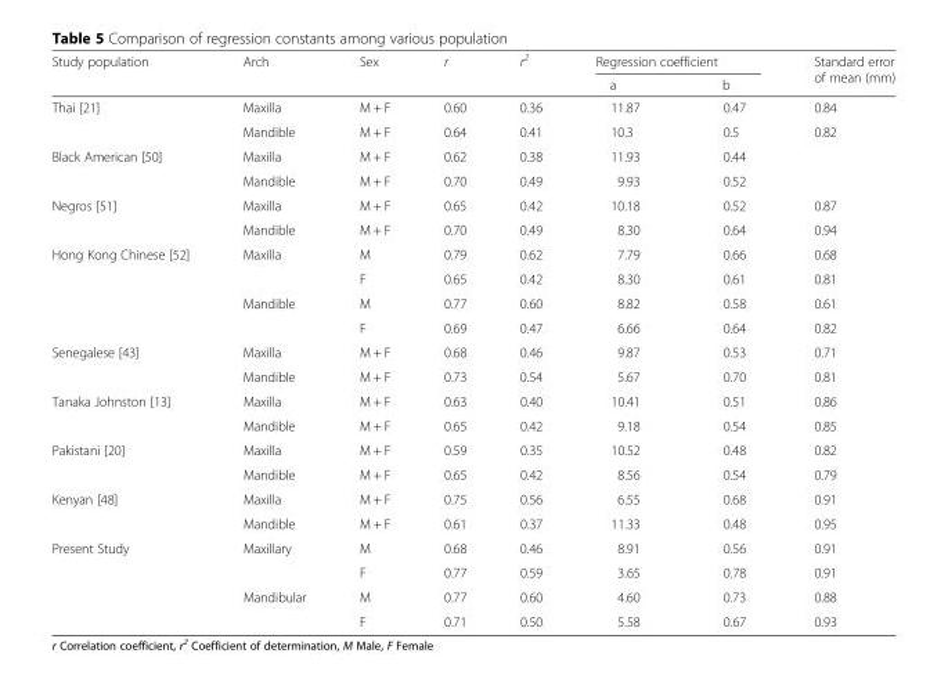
<table><thead><tr><td rowspan="2">Study population</td><td rowspan="2">Arch</td><td rowspan="2">Sex</td><td rowspan="2">r</td><td rowspan="2">r<sup>2</sup></td><td colspan="2">Regression coefficient</td><td rowspan="2">Standard error of mean (mm)</td></tr><tr><td>a</td><td>b</td></tr></thead><tbody><tr><td rowspan="2">Thai [21]</td><td>Maxilla</td><td>M + F</td><td>0.60</td><td>0.36</td><td>11.87</td><td>0.47</td><td>0.84</td></tr><tr><td>Mandible</td><td>M + F</td><td>0.64</td><td>0.41</td><td>10.3</td><td>0.5</td><td>0.82</td></tr><tr><td rowspan="2">Black American [50]</td><td>Maxilla</td><td>M + F</td><td>0.62</td><td>0.38</td><td>11.93</td><td>0.44</td><td></td></tr><tr><td>Mandible</td><td>M + F</td><td>0.70</td><td>0.49</td><td>9.93</td><td>0.52</td><td></td></tr><tr><td rowspan="2">Negros [51]</td><td>Maxilla</td><td>M + F</td><td>0.65</td><td>0.42</td><td>10.18</td><td>0.52</td><td>0.87</td></tr><tr><td>Mandible</td><td>M + F</td><td>0.70</td><td>0.49</td><td>8.30</td><td>0.64</td><td>0.94</td></tr><tr><td rowspan="4">Hong Kong Chinese [52]</td><td rowspan="2">Maxilla</td><td>M</td><td>0.79</td><td>0.62</td><td>7.79</td><td>0.66</td><td>0.68</td></tr><tr><td>F</td><td>0.65</td><td>0.42</td><td>8.30</td><td>0.61</td><td>0.81</td></tr><tr><td rowspan="2">Mandible</td><td>M</td><td>0.77</td><td>0.60</td><td>8.82</td><td>0.58</td><td>0.61</td></tr><tr><td>F</td><td>0.69</td><td>0.47</td><td>6.66</td><td>0.64</td><td>0.82</td></tr><tr><td rowspan="2">Senegalese [43]</td><td>Maxilla</td><td>M + F</td><td>0.68</td><td>0.46</td><td>9.87</td><td>0.53</td><td>0.71</td></tr><tr><td>Mandible</td><td>M + F</td><td>0.73</td><td>0.54</td><td>5.67</td><td>0.70</td><td>0.81</td></tr><tr><td rowspan="2">Tanaka Johnston [13]</td><td>Maxilla</td><td>M + F</td><td>0.63</td><td>0.40</td><td>10.41</td><td>0.51</td><td>0.86</td></tr><tr><td>Mandible</td><td>M + F</td><td>0.65</td><td>0.42</td><td>9.18</td><td>0.54</td><td>0.85</td></tr><tr><td rowspan="2">Pakistani [20]</td><td>Maxilla</td><td>M + F</td><td>0.59</td><td>0.35</td><td>10.52</td><td>0.48</td><td>0.82</td></tr><tr><td>Mandible</td><td>M + F</td><td>0.65</td><td>0.42</td><td>8.56</td><td>0.54</td><td>0.79</td></tr><tr><td rowspan="2">Kenyan [48]</td><td>Maxilla</td><td>M + F</td><td>0.75</td><td>0.56</td><td>6.55</td><td>0.68</td><td>0.91</td></tr><tr><td>Mandible</td><td>M + F</td><td>0.61</td><td>0.37</td><td>11.33</td><td>0.48</td><td>0.95</td></tr><tr><td rowspan="4">Present Study</td><td rowspan="2">Maxillary</td><td>M</td><td>0.68</td><td>0.46</td><td>8.91</td><td>0.56</td><td>0.91</td></tr><tr><td>F</td><td>0.77</td><td>0.59</td><td>3.65</td><td>0.78</td><td>0.91</td></tr><tr><td rowspan="2">Mandibular</td><td>M</td><td>0.77</td><td>0.60</td><td>4.60</td><td>0.73</td><td>0.88</td></tr><tr><td>F</td><td>0.71</td><td>0.50</td><td>5.58</td><td>0.67</td><td>0.93</td></tr></tbody></table>